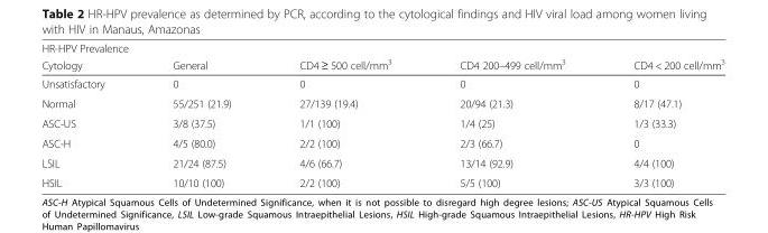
<table><thead><tr><td colspan="5">HR-HPV Prevalence</td></tr><tr><td>Cytology</td><td>General</td><td>CD4 ≥ 500 cell/mm<sup>3</sup></td><td>CD4 200–499 cell/mm<sup>3</sup></td><td>CD4 &lt; 200 cell/mm<sup>3</sup></td></tr></thead><tbody><tr><td>Unsatisfactory</td><td>0</td><td>0</td><td>0</td><td>0</td></tr><tr><td>Normal</td><td>55/251 (21.9)</td><td>27/139 (19.4)</td><td>20/94 (21.3)</td><td>8/17 (47.1)</td></tr><tr><td>ASC-US</td><td>3/8 (37.5)</td><td>1/1 (100)</td><td>1/4 (25)</td><td>1/3 (33.3)</td></tr><tr><td>ASC-H</td><td>4/5 (80.0)</td><td>2/2 (100)</td><td>2/3 (66.7)</td><td>0</td></tr><tr><td>LSIL</td><td>21/24 (87.5)</td><td>4/6 (66.7)</td><td>13/14 (92.9)</td><td>4/4 (100)</td></tr><tr><td>HSIL</td><td>10/10 (100)</td><td>2/2 (100)</td><td>5/5 (100)</td><td>3/3 (100)</td></tr></tbody></table>